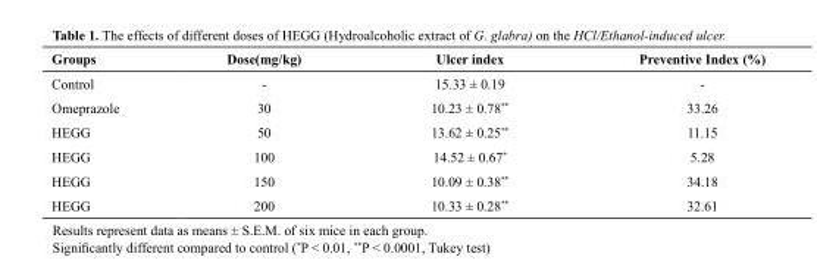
<table><thead><tr><td>Groups</td><td>Dose(mg/kg)</td><td>Ulcer index</td><td>Preventive Index (%)</td></tr></thead><tbody><tr><td>Control</td><td>-</td><td>15.33 ± 0.19</td><td>-</td></tr><tr><td>Omeprazole</td><td>30</td><td>10.23 ± 0.78**</td><td>33.26</td></tr><tr><td>HEGG</td><td>50</td><td>13.62 ± 0.25**</td><td>11.15</td></tr><tr><td>HEGG</td><td>100</td><td>14.52 ± 0.67*</td><td>5.28</td></tr><tr><td>HEGG</td><td>150</td><td>10.09 ± 0.38**</td><td>34.18</td></tr><tr><td>HEGG</td><td>200</td><td>10.33 ± 0.28**</td><td>32.61</td></tr></tbody></table>